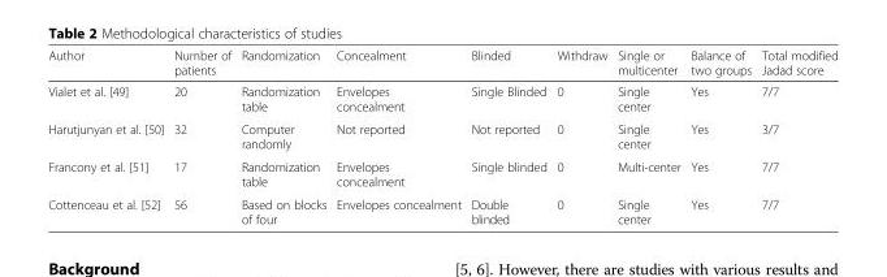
<table><thead><tr><td>Author</td><td>Number of patients</td><td>Randomization</td><td>Concealment</td><td>Blinded</td><td>Withdraw</td><td>Single or multicenter</td><td>Balance of two groups</td><td>Total modified Jadad score</td></tr></thead><tbody><tr><td>Vialet et al. [49]</td><td>20</td><td>Randomization table</td><td>Envelopes concealment</td><td>Single Blinded</td><td>0</td><td>Single center</td><td>Yes</td><td>7/7</td></tr><tr><td>Harutjunyan et al. [50]</td><td>32</td><td>Computer randomly</td><td>Not reported</td><td>Not reported</td><td>0</td><td>Single center</td><td>Yes</td><td>3/7</td></tr><tr><td>Francony et al. [51]</td><td>17</td><td>Randomization table</td><td>Envelopes concealment</td><td>Single blinded</td><td>0</td><td>Multi-center</td><td>Yes</td><td>7/7</td></tr><tr><td>Cottenceau et al. [52]</td><td>56</td><td>Based on blocks of four</td><td>Envelopes concealment</td><td>Double blinded</td><td>0</td><td>Single center</td><td>Yes</td><td>7/7</td></tr></tbody></table>